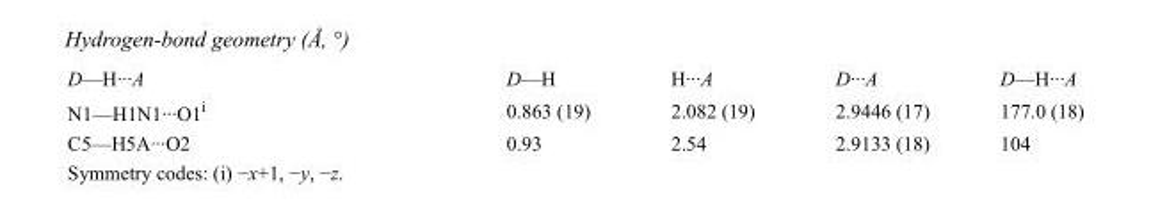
<table><tbody><tr><td>D—H···A</td><td>D—H</td><td>H···A</td><td>D···A</td><td>D—H···A</td></tr><tr><td>N1—H1N1···O1<sup>i</sup></td><td>0.863 (19)</td><td>2.082 (19)</td><td>2.9446 (17)</td><td>177.0 (18)</td></tr><tr><td>C5—H5A···O2</td><td>0.93</td><td>2.54</td><td>2.9133 (18)</td><td>104</td></tr></tbody></table>